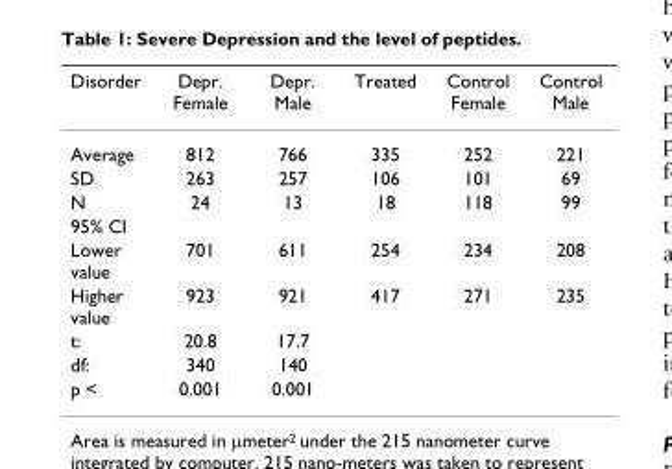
<table><thead><tr><td>Disorder</td><td>Depr. Female</td><td>Depr. Male</td><td>Treated</td><td>Control Female</td><td>Control Male</td></tr></thead><tbody><tr><td>Average</td><td>812</td><td>766</td><td>335</td><td>252</td><td>221</td></tr><tr><td>SD</td><td>263</td><td>257</td><td>106</td><td>101</td><td>69</td></tr><tr><td>N</td><td>24</td><td>13</td><td>18</td><td>118</td><td>99</td></tr><tr><td colspan="6">95% CI</td></tr><tr><td>Lower value</td><td>701</td><td>611</td><td>254</td><td>234</td><td>208</td></tr><tr><td>Higher value</td><td>923</td><td>921</td><td>417</td><td>271</td><td>235</td></tr><tr><td>t:</td><td>20.8</td><td>17.7</td><td></td><td></td><td></td></tr><tr><td>df:</td><td>340</td><td>140</td><td></td><td></td><td></td></tr><tr><td>p &lt;</td><td>0.001</td><td>0.001</td><td></td><td></td><td></td></tr></tbody></table>